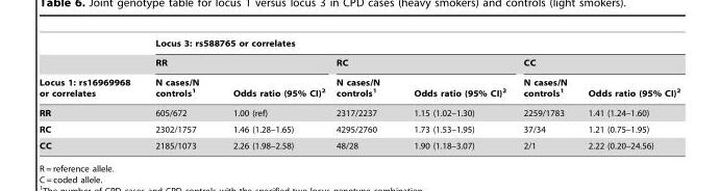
<table><thead><tr><td rowspan="3">Locus 1: rs16969968 or correlates</td><td colspan="6">Locus 3: rs588765 or correlates</td></tr><tr><td colspan="2">RR</td><td colspan="2">RC</td><td colspan="2">CC</td></tr><tr><td>N cases/N controls<sup>1</sup></td><td>Odds ratio (95% CI)<sup>2</sup></td><td>N cases/N controls<sup>1</sup></td><td>Odds ratio (95% CI)<sup>2</sup></td><td>N cases/N controls<sup>1</sup></td><td>Odds ratio (95% CI)<sup>2</sup></td></tr></thead><tbody><tr><td>RR</td><td>605/672</td><td>1.00 (ref)</td><td>2317/2237</td><td>1.15 (1.02–1.30)</td><td>2259/1783</td><td>1.41 (1.24–1.60)</td></tr><tr><td>RC</td><td>2302/1757</td><td>1.46 (1.28–1.65)</td><td>4295/2760</td><td>1.73 (1.53–1.95)</td><td>37/34</td><td>1.21 (0.75–1.95)</td></tr><tr><td>CC</td><td>2185/1073</td><td>2.26 (1.98–2.58)</td><td>48/28</td><td>1.90 (1.18–3.07)</td><td>2/1</td><td>2.22 (0.20–24.56)</td></tr></tbody></table>